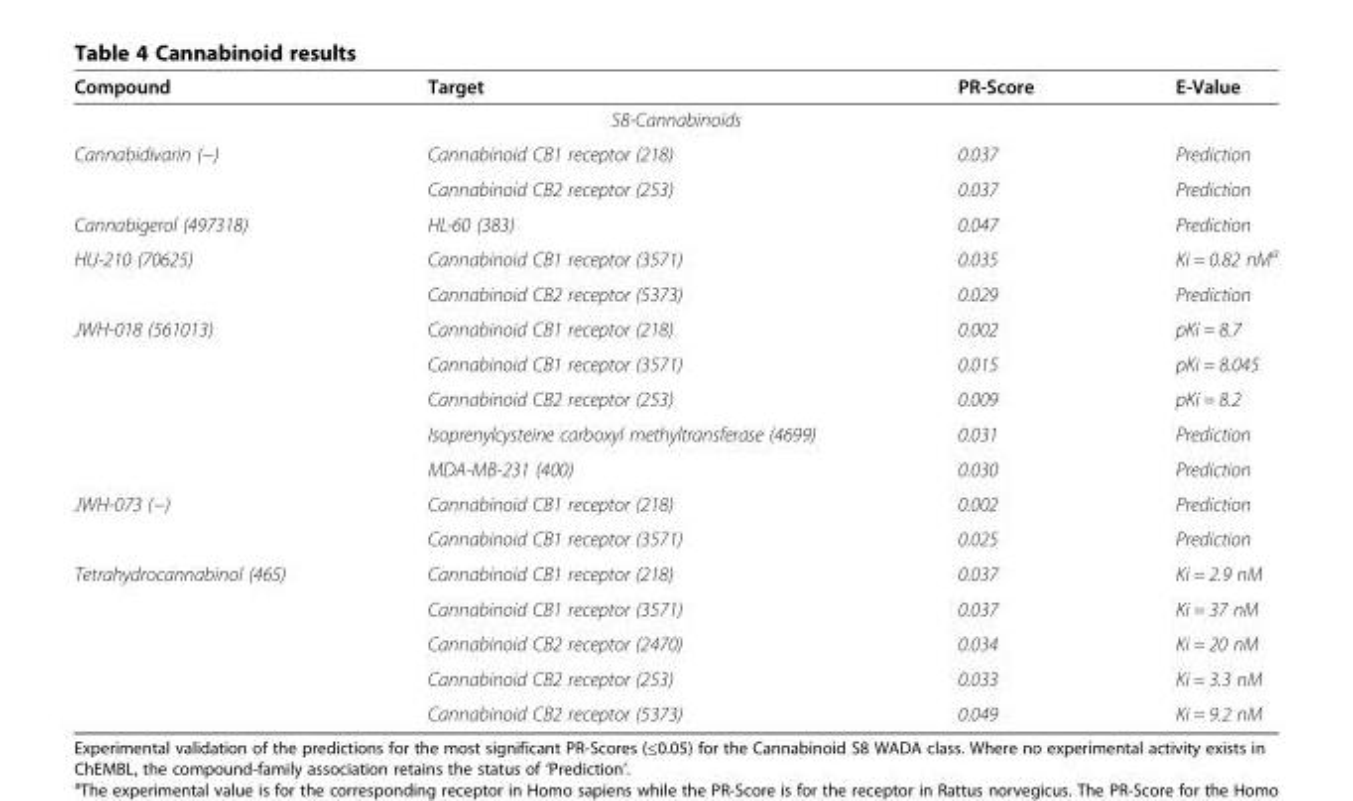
<table><thead><tr><td>Compound</td><td>Target</td><td>PR-Score</td><td>E-Value</td></tr></thead><tbody><tr><td colspan="4">S8-Cannabinoids</td></tr><tr><td rowspan="2">Cannabidivarin (−)</td><td>Cannabinoid CB1 receptor (218)</td><td>0.037</td><td>Prediction</td></tr><tr><td>Cannabinoid CB2 receptor (253)</td><td>0.037</td><td>Prediction</td></tr><tr><td>Cannabigerol (497318)</td><td>HL-60 (383)</td><td>0.047</td><td>Prediction</td></tr><tr><td rowspan="2">HU-210 (70625)</td><td>Cannabinoid CB1 receptor (3571)</td><td>0.035</td><td>Ki = 0.82 nM<sup>a</sup></td></tr><tr><td>Cannabinoid CB2 receptor (5373)</td><td>0.029</td><td>Prediction</td></tr><tr><td rowspan="5">JWH-018 (561013)</td><td>Cannabinoid CB1 receptor (218)</td><td>0.002</td><td>pKi = 8.7</td></tr><tr><td>Cannabinoid CB1 receptor (3571)</td><td>0.015</td><td>pKi = 8.045</td></tr><tr><td>Cannabinoid CB2 receptor (253)</td><td>0.009</td><td>pKi = 8.2</td></tr><tr><td>Isoprenylcysteine carboxyl methyltransferase (4699)</td><td>0.031</td><td>Prediction</td></tr><tr><td>MDA-MB-231 (400)</td><td>0.030</td><td>Prediction</td></tr><tr><td rowspan="2">JWH-073 (−)</td><td>Cannabinoid CB1 receptor (218)</td><td>0.002</td><td>Prediction</td></tr><tr><td>Cannabinoid CB1 receptor (3571)</td><td>0.025</td><td>Prediction</td></tr><tr><td rowspan="5">Tetrahydrocannabinol (465)</td><td>Cannabinoid CB1 receptor (218)</td><td>0.037</td><td>Ki = 2.9 nM</td></tr><tr><td>Cannabinoid CB1 receptor (3571)</td><td>0.037</td><td>Ki = 37 nM</td></tr><tr><td>Cannabinoid CB2 receptor (2470)</td><td>0.034</td><td>Ki = 20 nM</td></tr><tr><td>Cannabinoid CB2 receptor (253)</td><td>0.033</td><td>Ki = 3.3 nM</td></tr><tr><td>Cannabinoid CB2 receptor (5373)</td><td>0.049</td><td>Ki = 9.2 nM</td></tr></tbody></table>